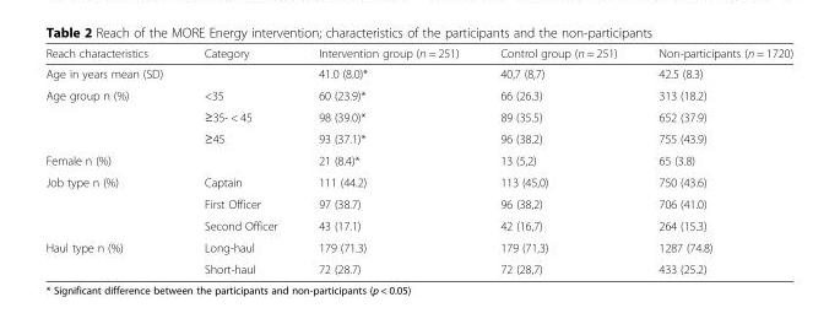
<table><thead><tr><td>Reach characteristics</td><td>Category</td><td>Intervention group (n = 251)</td><td>Control group (n = 251)</td><td>Non-participants (n = 1720)</td></tr></thead><tbody><tr><td>Age in years mean (SD)</td><td></td><td>41.0 (8.0)*</td><td>40,7 (8,7)</td><td>42.5 (8.3)</td></tr><tr><td rowspan="3">Age group n (%)</td><td>&lt;35</td><td>60 (23.9)*</td><td>66 (26.3)</td><td>313 (18.2)</td></tr><tr><td>≥35- &lt; 45</td><td>98 (39.0)*</td><td>89 (35.5)</td><td>652 (37.9)</td></tr><tr><td>≥45</td><td>93 (37.1)*</td><td>96 (38.2)</td><td>755 (43.9)</td></tr><tr><td>Female n (%)</td><td></td><td>21 (8.4)*</td><td>13 (5,2)</td><td>65 (3.8)</td></tr><tr><td rowspan="3">Job type n (%)</td><td>Captain</td><td>111 (44.2)</td><td>113 (45,0)</td><td>750 (43.6)</td></tr><tr><td>First Officer</td><td>97 (38.7)</td><td>96 (38,2)</td><td>706 (41.0)</td></tr><tr><td>Second Officer</td><td>43 (17.1)</td><td>42 (16,7)</td><td>264 (15.3)</td></tr><tr><td rowspan="2">Haul type n (%)</td><td>Long-haul</td><td>179 (71.3)</td><td>179 (71,3)</td><td>1287 (74.8)</td></tr><tr><td>Short-haul</td><td>72 (28.7)</td><td>72 (28,7)</td><td>433 (25.2)</td></tr></tbody></table>